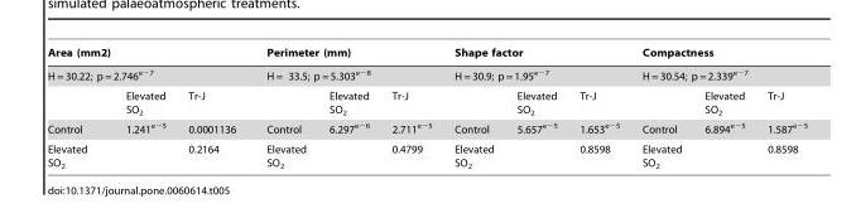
<table><thead><tr><td rowspan="2" colspan="3">Area (mm2) H = 30.22; p = 2.746<sup>e−7</sup></td><td rowspan="2" colspan="3">Perimeter (mm) H = 33.5; p = 5.303<sup>e−8</sup></td><td rowspan="2" colspan="3">Shape factor H = 30.9; p = 1.95<sup>e−7</sup></td><td rowspan="2" colspan="3">Compactness H = 30.54; p = 2.339<sup>e−7</sup></td></tr><tr></tr><tr><td></td><td>Elevated SO<sub>2</sub></td><td>Tr-J</td><td></td><td>Elevated SO<sub>2</sub></td><td>Tr-J</td><td></td><td>Elevated SO<sub>2</sub></td><td>Tr-J</td><td></td><td>Elevated SO<sub>2</sub></td><td>Tr-J</td></tr></thead><tbody><tr><td>Control</td><td>1.241<sup>e−5</sup></td><td>0.0001136</td><td>Control</td><td>6.297<sup>e−6</sup></td><td>2.711<sup>e−5</sup></td><td>Control</td><td>5.657<sup>e−5</sup></td><td>1.653<sup>e−5</sup></td><td>Control</td><td>6.894<sup>e−5</sup></td><td>1.587<sup>e−5</sup></td></tr><tr><td>Elevated SO<sub>2</sub></td><td></td><td>0.2164</td><td>Elevated SO<sub>2</sub></td><td></td><td>0.4799</td><td>Elevated SO<sub>2</sub></td><td></td><td>0.8598</td><td>Elevated SO<sub>2</sub></td><td></td><td>0.8598</td></tr></tbody></table>